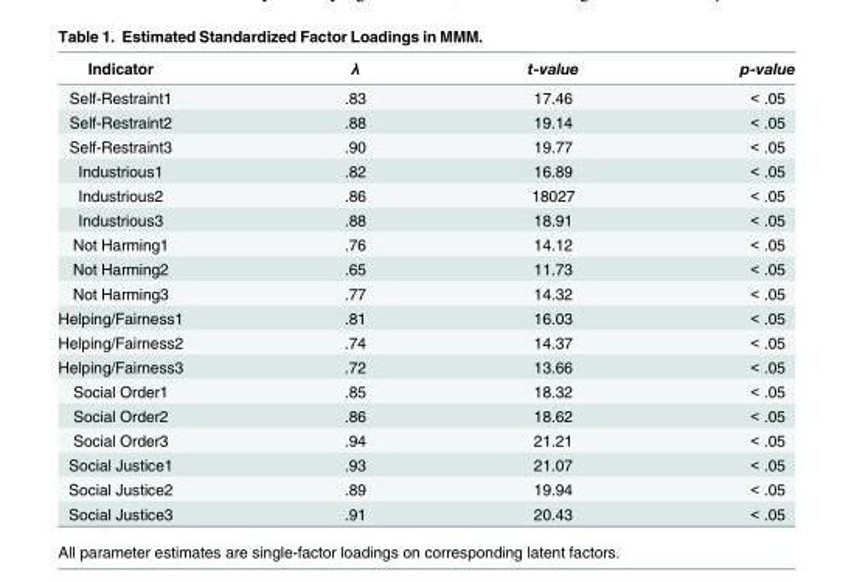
<table><thead><tr><td>Indicator</td><td>λ</td><td>t-value</td><td>p-value</td></tr></thead><tbody><tr><td>Self-Restraint1</td><td>.83</td><td>17.46</td><td>&lt; .05</td></tr><tr><td>Self-Restraint2</td><td>.88</td><td>19.14</td><td>&lt; .05</td></tr><tr><td>Self-Restraint3</td><td>.90</td><td>19.77</td><td>&lt; .05</td></tr><tr><td>Industrious1</td><td>.82</td><td>16.89</td><td>&lt; .05</td></tr><tr><td>Industrious2</td><td>.86</td><td>18027</td><td>&lt; .05</td></tr><tr><td>Industrious3</td><td>.88</td><td>18.91</td><td>&lt; .05</td></tr><tr><td>Not Harming1</td><td>.76</td><td>14.12</td><td>&lt; .05</td></tr><tr><td>Not Harming2</td><td>.65</td><td>11.73</td><td>&lt; .05</td></tr><tr><td>Not Harming3</td><td>.77</td><td>14.32</td><td>&lt; .05</td></tr><tr><td>Helping/Fairness1</td><td>.81</td><td>16.03</td><td>&lt; .05</td></tr><tr><td>Helping/Fairness2</td><td>.74</td><td>14.37</td><td>&lt; .05</td></tr><tr><td>Helping/Fairness3</td><td>.72</td><td>13.66</td><td>&lt; .05</td></tr><tr><td>Social Order1</td><td>.85</td><td>18.32</td><td>&lt; .05</td></tr><tr><td>Social Order2</td><td>.86</td><td>18.62</td><td>&lt; .05</td></tr><tr><td>Social Order3</td><td>.94</td><td>21.21</td><td>&lt; .05</td></tr><tr><td>Social Justice1</td><td>.93</td><td>21.07</td><td>&lt; .05</td></tr><tr><td>Social Justice2</td><td>.89</td><td>19.94</td><td>&lt; .05</td></tr><tr><td>Social Justice3</td><td>.91</td><td>20.43</td><td>&lt; .05</td></tr></tbody></table>